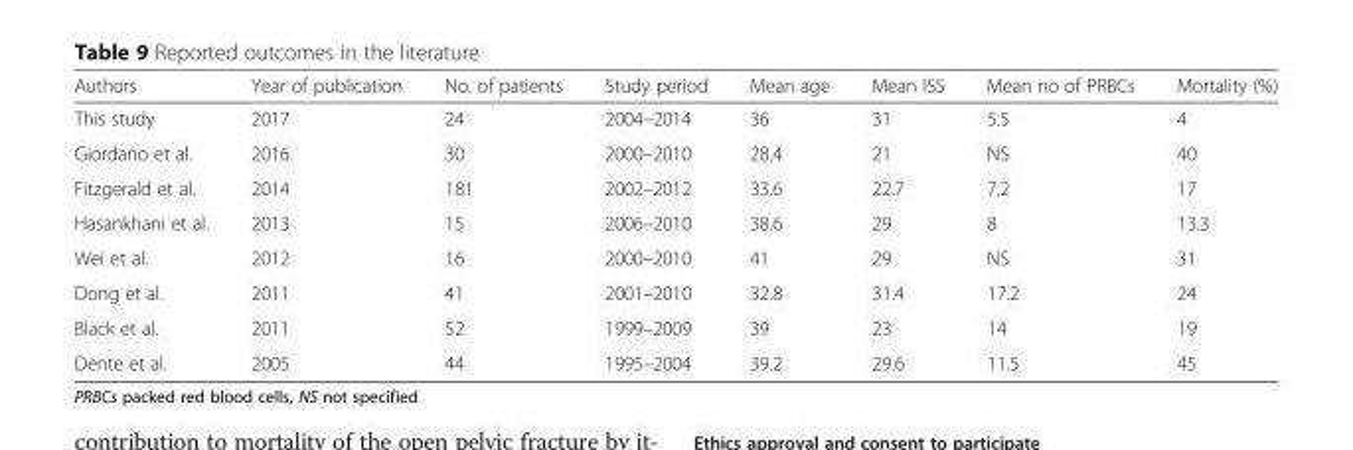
<table><thead><tr><td>Authors</td><td>Year of publication</td><td>No. of patients</td><td>Study period</td><td>Mean age</td><td>Mean ISS</td><td>Mean no of PRBCs</td><td>Mortality (%)</td></tr></thead><tbody><tr><td>This study</td><td>2017</td><td>24</td><td>2004–2014</td><td>36</td><td>31</td><td>5.5</td><td>4</td></tr><tr><td>Giordano et al.</td><td>2016</td><td>30</td><td>2000–2010</td><td>28.4</td><td>21</td><td>NS</td><td>40</td></tr><tr><td>Fitzgerald et al.</td><td>2014</td><td>181</td><td>2002–2012</td><td>33.6</td><td>22.7</td><td>7.2</td><td>17</td></tr><tr><td>Hasankhani et al.</td><td>2013</td><td>15</td><td>2006–2010</td><td>38.6</td><td>29</td><td>8</td><td>13.3</td></tr><tr><td>Wei et al.</td><td>2012</td><td>16</td><td>2000–2010</td><td>41</td><td>29</td><td>NS</td><td>31</td></tr><tr><td>Dong et al.</td><td>2011</td><td>41</td><td>2001–2010</td><td>32.8</td><td>31.4</td><td>17.2</td><td>24</td></tr><tr><td>Black et al.</td><td>2011</td><td>52</td><td>1999–2009</td><td>39</td><td>23</td><td>14</td><td>19</td></tr><tr><td>Dente et al.</td><td>2005</td><td>44</td><td>1995–2004</td><td>39.2</td><td>29.6</td><td>11.5</td><td>45</td></tr></tbody></table>